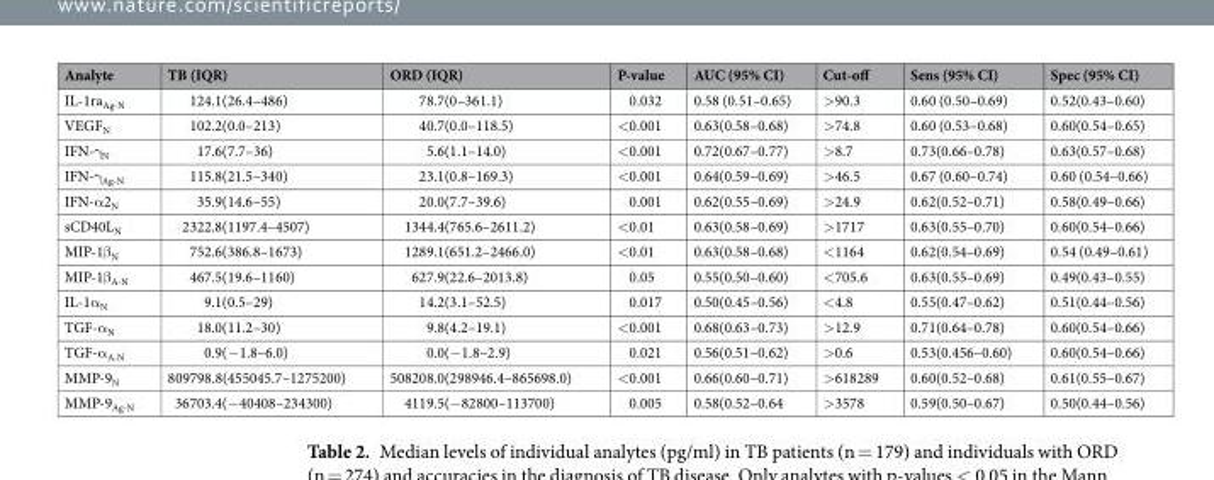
<table><thead><tr><td>Analyte</td><td>TB (IQR)</td><td>ORD (IQR)</td><td>P-value</td><td>AUC (95% CI)</td><td>Cut-off</td><td>Sens (95% CI)</td><td>Spec (95% CI)</td></tr></thead><tbody><tr><td>IL-1ra<sub>Ag-N</sub></td><td>124.1(26.4–486)</td><td>78.7(0–361.1)</td><td>0.032</td><td>0.58 (0.51–0.65)</td><td>&gt;90.3</td><td>0.60 (0.50–0.69)</td><td>0.52(0.43–0.60)</td></tr><tr><td>VEGF<sub>N</sub></td><td>102.2(0.0–213)</td><td>40.7(0.0–118.5)</td><td>&lt;0.001</td><td>0.63(0.58–0.68)</td><td>&gt;74.8</td><td>0.60 (0.53–0.68)</td><td>0.60(0.54–0.65)</td></tr><tr><td>IFN-γ<sub>N</sub></td><td>17.6(7.7–36)</td><td>5.6(1.1–14.0)</td><td>&lt;0.001</td><td>0.72(0.67–0.77)</td><td>&gt;8.7</td><td>0.73(0.66–0.78)</td><td>0.63(0.57–0.68)</td></tr><tr><td>IFN-γ<sub>Ag-N</sub></td><td>115.8(21.5–340)</td><td>23.1(0.8–169.3)</td><td>&lt;0.001</td><td>0.64(0.59–0.69)</td><td>&gt;46.5</td><td>0.67 (0.60–0.74)</td><td>0.60 (0.54–0.66)</td></tr><tr><td>IFN-α2<sub>N</sub></td><td>35.9(14.6–55)</td><td>20.0(7.7–39.6)</td><td>0.001</td><td>0.62(0.55–0.69)</td><td>&gt;24.9</td><td>0.62(0.52–0.71)</td><td>0.58(0.49–0.66)</td></tr><tr><td>sCD40L<sub>N</sub></td><td>2322.8(1197.4–4507)</td><td>1344.4(765.6–2611.2)</td><td>&lt;0.01</td><td>0.63(0.58–0.69)</td><td>&gt;1717</td><td>0.63(0.55–0.70)</td><td>0.60(0.54–0.66)</td></tr><tr><td>MIP-1β<sub>N</sub></td><td>752.6(386.8–1673)</td><td>1289.1(651.2–2466.0)</td><td>&lt;0.01</td><td>0.63(0.58–0.68)</td><td>&lt;1164</td><td>0.62(0.54–0.69)</td><td>0.54 (0.49–0.61)</td></tr><tr><td>MIP-1β<sub>A-N</sub></td><td>467.5(19.6–1160)</td><td>627.9(22.6–2013.8)</td><td>0.05</td><td>0.55(0.50–0.60)</td><td>&lt;705.6</td><td>0.63(0.55–0.69)</td><td>0.49(0.43–0.55)</td></tr><tr><td>IL-1α<sub>N</sub></td><td>9.1(0.5–29)</td><td>14.2(3.1–52.5)</td><td>0.017</td><td>0.50(0.45–0.56)</td><td>&lt;4.8</td><td>0.55(0.47–0.62)</td><td>0.51(0.44–0.56)</td></tr><tr><td>TGF-α<sub>N</sub></td><td>18.0(11.2–30)</td><td>9.8(4.2–19.1)</td><td>&lt;0.001</td><td>0.68(0.63–0.73)</td><td>&gt;12.9</td><td>0.71(0.64–0.78)</td><td>0.60(0.54–0.66)</td></tr><tr><td>TGF-α<sub>A-N</sub></td><td>0.9(−1.8–6.0)</td><td>0.0(−1.8–2.9)</td><td>0.021</td><td>0.56(0.51–0.62)</td><td>&gt;0.6</td><td>0.53(0.456–0.60)</td><td>0.60(0.54–0.66)</td></tr><tr><td>MMP-9<sub>N</sub></td><td>809798.8(455045.7–1275200)</td><td>508208.0(298946.4–865698.0)</td><td>&lt;0.001</td><td>0.66(0.60–0.71)</td><td>&gt;618289</td><td>0.60(0.52–0.68)</td><td>0.61(0.55–0.67)</td></tr><tr><td>MMP-9<sub>Ag-N</sub></td><td>36703.4(−40408–234300)</td><td>4119.5(−82800–113700)</td><td>0.005</td><td>0.58(0.52–0.64</td><td>&gt;3578</td><td>0.59(0.50–0.67)</td><td>0.50(0.44–0.56)</td></tr></tbody></table>